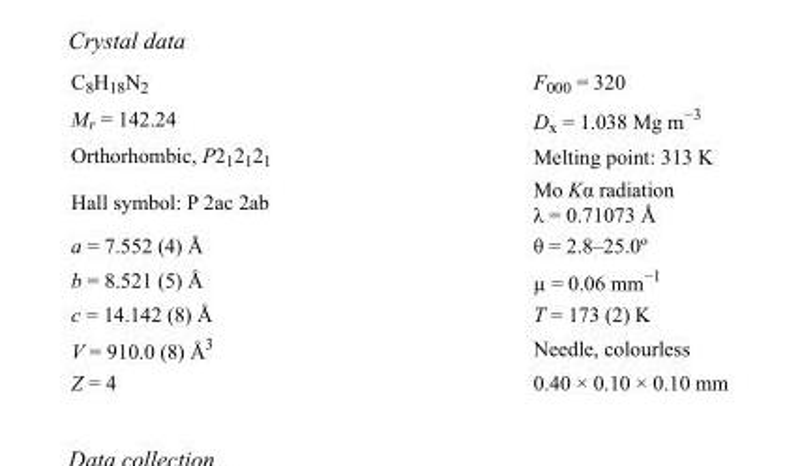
<table><tbody><tr><td>C<sub>8</sub>H<sub>18</sub>N<sub>2</sub></td><td>F<sub>000</sub> = 320</td></tr><tr><td>M<sub>r</sub> = 142.24</td><td>D<sub>x</sub> = 1.038 Mg m<sup>−3</sup></td></tr><tr><td>Orthorhombic, P2<sub>1</sub>2<sub>1</sub>2<sub>1</sub></td><td>Melting point: 313 K</td></tr><tr><td>Hall symbol: P 2ac 2ab</td><td>Mo Kα radiation λ = 0.71073 Å</td></tr><tr><td>a = 7.552 (4) Å</td><td>θ = 2.8–25.0º</td></tr><tr><td>b = 8.521 (5) Å</td><td>µ = 0.06 mm<sup>−1</sup></td></tr><tr><td>c = 14.142 (8) Å</td><td>T = 173 (2) K</td></tr><tr><td>V = 910.0 (8) Å<sup>3</sup></td><td>Needle, colourless</td></tr><tr><td>Z = 4</td><td>0.40 × 0.10 × 0.10 mm</td></tr></tbody></table>